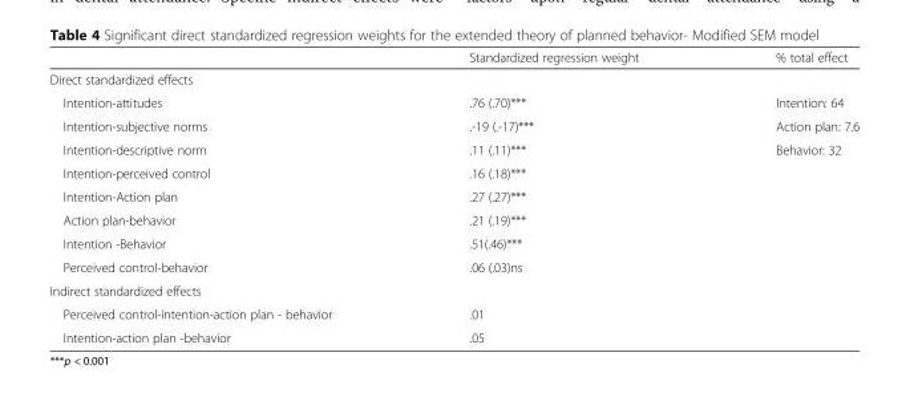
<table><thead><tr><td></td><td>Standardized regression weight</td><td>% total effect</td></tr></thead><tbody><tr><td colspan="3">Direct standardized effects</td></tr><tr><td>Intention-attitudes</td><td>.76 (.70)***</td><td>Intention: 64</td></tr><tr><td>Intention-subjective norms</td><td>.-19 (.-17)***</td><td>Action plan: 7.6</td></tr><tr><td>Intention-descriptive norm</td><td>.11 (.11)***</td><td>Behavior: 32</td></tr><tr><td>Intention-perceived control</td><td>.16 (.18)***</td><td></td></tr><tr><td>Intention-Action plan</td><td>.27 (.27)***</td><td></td></tr><tr><td>Action plan-behavior</td><td>.21 (.19)***</td><td></td></tr><tr><td>Intention -Behavior</td><td>.51(.46)***</td><td></td></tr><tr><td>Perceived control-behavior</td><td>.06 (.03)ns</td><td></td></tr><tr><td colspan="3">Indirect standardized effects</td></tr><tr><td>Perceived control-intention-action plan - behavior</td><td>.01</td><td></td></tr><tr><td>Intention-action plan -behavior</td><td>.05</td><td></td></tr></tbody></table>